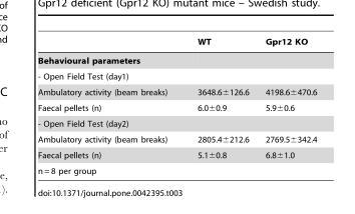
<table><thead><tr><td></td><td>WT</td><td>Gpr12 KO</td></tr></thead><tbody><tr><td colspan="3">Behavioural parameters</td></tr><tr><td colspan="3">- Open Field Test (day1)</td></tr><tr><td>Ambulatory activity (beam breaks)</td><td>3648.6±126.6</td><td>4198.6±470.6</td></tr><tr><td>Faecal pellets (n)</td><td>6.0±0.9</td><td>5.9±0.6</td></tr><tr><td colspan="3">- Open Field Test (day2)</td></tr><tr><td>Ambulatory activity (beam breaks)</td><td>2805.4±212.6</td><td>2769.5±342.4</td></tr><tr><td>Faecal pellets (n)</td><td>5.1±0.8</td><td>6.8±1.0</td></tr><tr><td>n = 8 per group</td><td></td><td></td></tr></tbody></table>